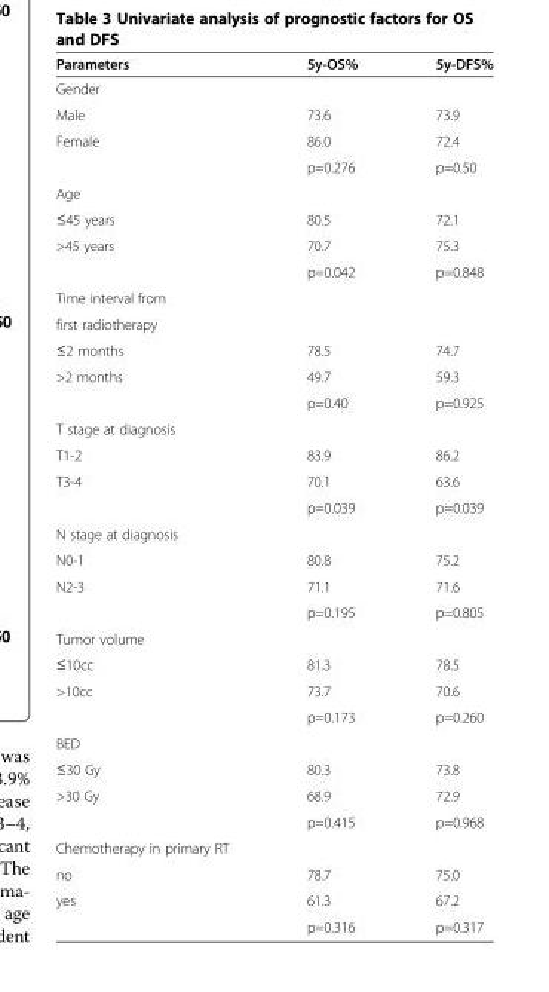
<table><thead><tr><td>Parameters</td><td>5y-OS%</td><td>5y-DFS%</td></tr></thead><tbody><tr><td colspan="3">Gender</td></tr><tr><td>Male</td><td>73.6</td><td>73.9</td></tr><tr><td rowspan="2">Female</td><td>86.0</td><td>72.4</td></tr><tr><td>p=0.276</td><td>p=0.50</td></tr><tr><td colspan="3">Age</td></tr><tr><td>≤45 years</td><td>80.5</td><td>72.1</td></tr><tr><td rowspan="2">&gt;45 years</td><td>70.7</td><td>75.3</td></tr><tr><td>p=0.042</td><td>p=0.848</td></tr><tr><td colspan="3">Time interval from</td></tr><tr><td colspan="3">first radiotherapy</td></tr><tr><td>≤2 months</td><td>78.5</td><td>74.7</td></tr><tr><td rowspan="2">&gt;2 months</td><td>49.7</td><td>59.3</td></tr><tr><td>p=0.40</td><td>p=0.925</td></tr><tr><td colspan="3">T stage at diagnosis</td></tr><tr><td>T1-2</td><td>83.9</td><td>86.2</td></tr><tr><td rowspan="2">T3-4</td><td>70.1</td><td>63.6</td></tr><tr><td>p=0.039</td><td>p=0.039</td></tr><tr><td colspan="3">N stage at diagnosis</td></tr><tr><td>N0-1</td><td>80.8</td><td>75.2</td></tr><tr><td rowspan="2">N2-3</td><td>71.1</td><td>71.6</td></tr><tr><td>p=0.195</td><td>p=0.805</td></tr><tr><td colspan="3">Tumor volume</td></tr><tr><td>≤10cc</td><td>81.3</td><td>78.5</td></tr><tr><td rowspan="2">&gt;10cc</td><td>73.7</td><td>70.6</td></tr><tr><td>p=0.173</td><td>p=0.260</td></tr><tr><td colspan="3">BED</td></tr><tr><td>≤30 Gy</td><td>80.3</td><td>73.8</td></tr><tr><td rowspan="2">&gt;30 Gy</td><td>68.9</td><td>72.9</td></tr><tr><td>p=0.415</td><td>p=0.968</td></tr><tr><td colspan="3">Chemotherapy in primary RT</td></tr><tr><td>no</td><td>78.7</td><td>75.0</td></tr><tr><td rowspan="2">yes</td><td>61.3</td><td>67.2</td></tr><tr><td>p=0.316</td><td>p=0.317</td></tr></tbody></table>